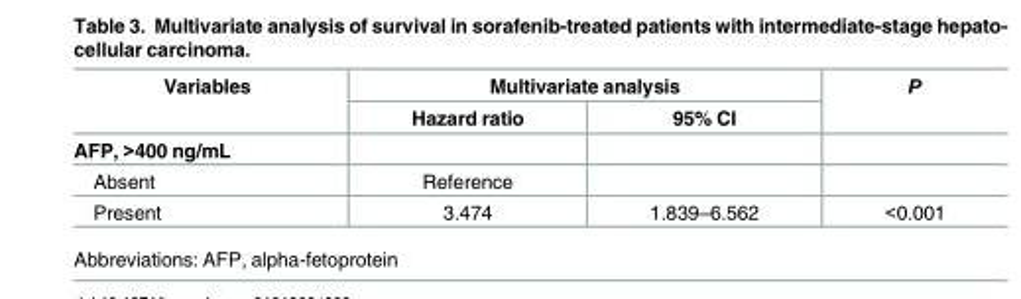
<table><thead><tr><td rowspan="2">Variables</td><td colspan="2">Multivariate analysis</td><td rowspan="2">P</td></tr><tr><td>Hazard ratio</td><td>95% CI</td></tr></thead><tbody><tr><td colspan="4">AFP, &gt;400 ng/mL</td></tr><tr><td>Absent</td><td>Reference</td><td></td><td></td></tr><tr><td>Present</td><td>3.474</td><td>1.839–6.562</td><td>&lt;0.001</td></tr></tbody></table>